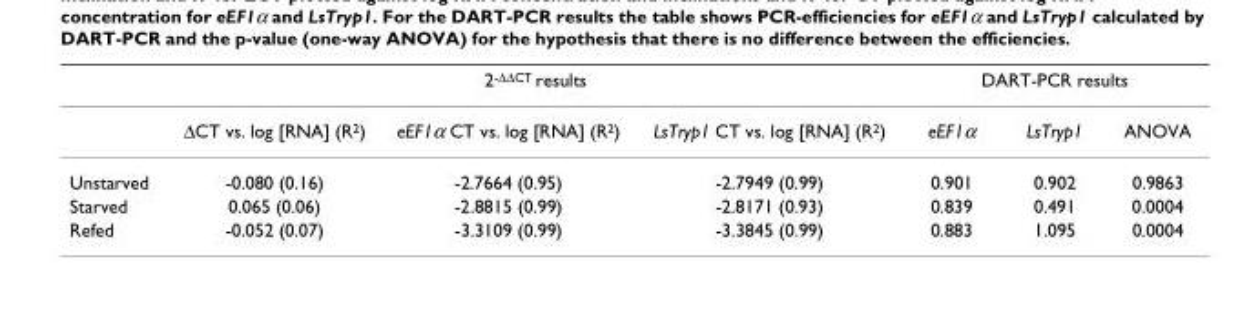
<table><thead><tr><td rowspan="2"></td><td colspan="3">2-∆∆CT results</td><td colspan="3">DART-PCR results</td></tr><tr><td>∆CT vs. log [RNA] (R2)</td><td>eEF1α CT vs. log [RNA] (R2)</td><td>LsTryp1 CT vs. log [RNA] (R2)</td><td>eEF1α</td><td>LsTryp1</td><td>ANOVA</td></tr></thead><tbody><tr><td>Unstarved</td><td>-0.080 (0.16)</td><td>-2.7664 (0.95)</td><td>-2.7949 (0.99)</td><td>0.901</td><td>0.902</td><td>0.9863</td></tr><tr><td>Starved</td><td>0.065 (0.06)</td><td>-2.8815 (0.99)</td><td>-2.8171 (0.93)</td><td>0.839</td><td>0.491</td><td>0.0004</td></tr><tr><td>Refed</td><td>-0.052 (0.07)</td><td>-3.3109 (0.99)</td><td>-3.3845 (0.99)</td><td>0.883</td><td>1.095</td><td>0.0004</td></tr></tbody></table>